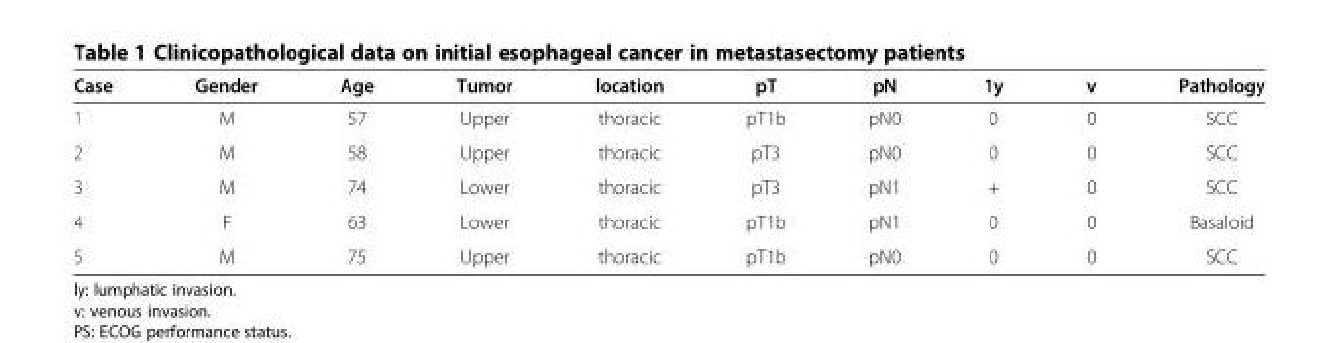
<table><thead><tr><td>Case</td><td>Gender</td><td>Age</td><td>Tumor</td><td>location</td><td>pT</td><td>pN</td><td>1y</td><td>v</td><td>Pathology</td></tr></thead><tbody><tr><td>1</td><td>M</td><td>57</td><td>Upper</td><td>thoracic</td><td>pT1b</td><td>pN0</td><td>0</td><td>0</td><td>SCC</td></tr><tr><td>2</td><td>M</td><td>58</td><td>Upper</td><td>thoracic</td><td>pT3</td><td>pN0</td><td>0</td><td>0</td><td>SCC</td></tr><tr><td>3</td><td>M</td><td>74</td><td>Lower</td><td>thoracic</td><td>pT3</td><td>pN1</td><td>+</td><td>0</td><td>SCC</td></tr><tr><td>4</td><td>F</td><td>63</td><td>Lower</td><td>thoracic</td><td>pT1b</td><td>pN1</td><td>0</td><td>0</td><td>Basaloid</td></tr><tr><td>5</td><td>M</td><td>75</td><td>Upper</td><td>thoracic</td><td>pT1b</td><td>pN0</td><td>0</td><td>0</td><td>SCC</td></tr></tbody></table>